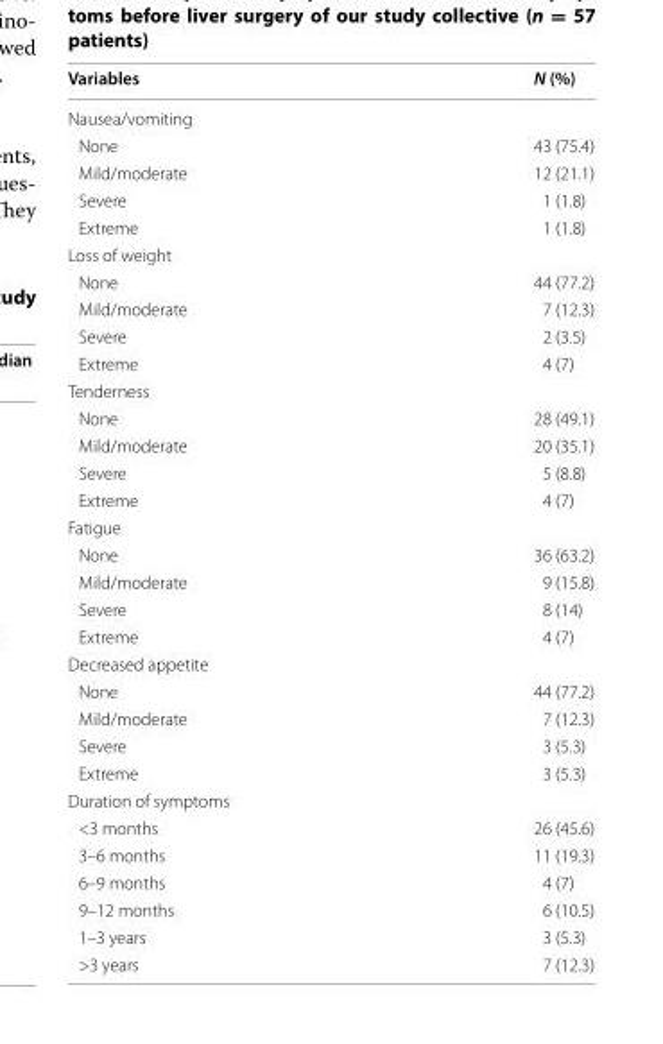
<table><thead><tr><td>Variables</td><td>N (%)</td></tr></thead><tbody><tr><td colspan="2">Nausea/vomiting</td></tr><tr><td>None</td><td>43 (75.4)</td></tr><tr><td>Mild/moderate</td><td>12 (21.1)</td></tr><tr><td>Severe</td><td>1 (1.8)</td></tr><tr><td>Extreme</td><td>1 (1.8)</td></tr><tr><td colspan="2">Loss of weight</td></tr><tr><td>None</td><td>44 (77.2)</td></tr><tr><td>Mild/moderate</td><td>7 (12.3)</td></tr><tr><td>Severe</td><td>2 (3.5)</td></tr><tr><td>Extreme</td><td>4 (7)</td></tr><tr><td colspan="2">Tenderness</td></tr><tr><td>None</td><td>28 (49.1)</td></tr><tr><td>Mild/moderate</td><td>20 (35.1)</td></tr><tr><td>Severe</td><td>5 (8.8)</td></tr><tr><td>Extreme</td><td>4 (7)</td></tr><tr><td colspan="2">Fatigue</td></tr><tr><td>None</td><td>36 (63.2)</td></tr><tr><td>Mild/moderate</td><td>9 (15.8)</td></tr><tr><td>Severe</td><td>8 (14)</td></tr><tr><td>Extreme</td><td>4 (7)</td></tr><tr><td colspan="2">Decreased appetite</td></tr><tr><td>None</td><td>44 (77.2)</td></tr><tr><td>Mild/moderate</td><td>7 (12.3)</td></tr><tr><td>Severe</td><td>3 (5.3)</td></tr><tr><td>Extreme</td><td>3 (5.3)</td></tr><tr><td colspan="2">Duration of symptoms</td></tr><tr><td>&lt;3 months</td><td>26 (45.6)</td></tr><tr><td>3–6 months</td><td>11 (19.3)</td></tr><tr><td>6–9 months</td><td>4 (7)</td></tr><tr><td>9–12 months</td><td>6 (10.5)</td></tr><tr><td>1–3 years</td><td>3 (5.3)</td></tr><tr><td>&gt;3 years</td><td>7 (12.3)</td></tr></tbody></table>